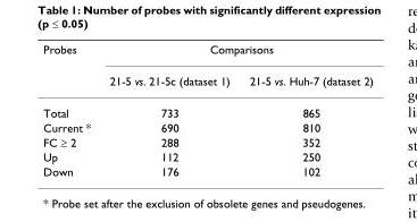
<table><thead><tr><td rowspan="2">Probes</td><td colspan="2">Comparisons</td></tr><tr><td>21-5 vs. 21-5c (dataset 1)</td><td>21-5 vs. Huh-7 (dataset 2)</td></tr></thead><tbody><tr><td>Total</td><td>733</td><td>865</td></tr><tr><td>Current *</td><td>690</td><td>810</td></tr><tr><td>FC ≥ 2</td><td>288</td><td>352</td></tr><tr><td>Up</td><td>112</td><td>250</td></tr><tr><td>Down</td><td>176</td><td>102</td></tr></tbody></table>